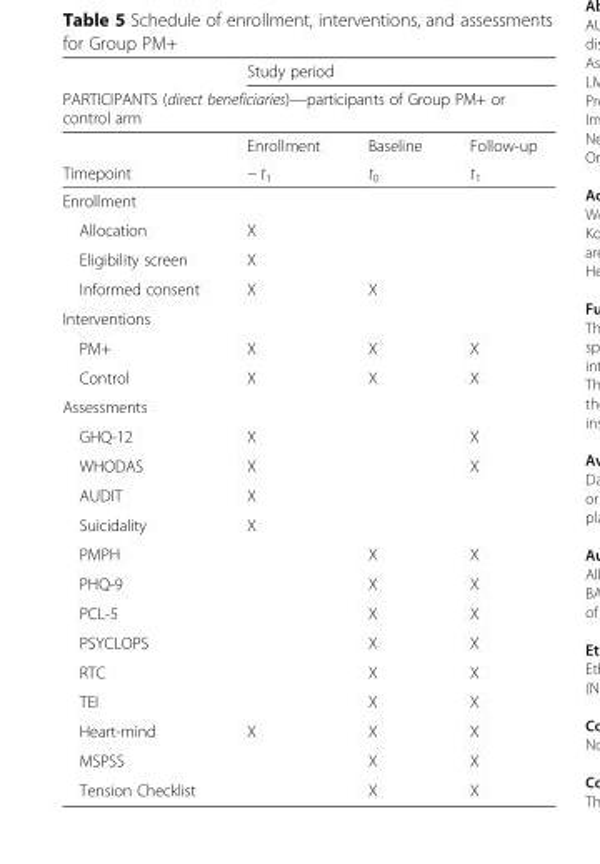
<table><thead><tr><td></td><td colspan="3">Study period</td></tr><tr><td colspan="4">PARTICIPANTS (direct beneficiaries)—participants of Group PM+ or control arm</td></tr><tr><td rowspan="2">Timepoint</td><td rowspan="2">Enrollment − t1</td><td rowspan="2">Baseline t<sub>0</sub></td><td rowspan="2">Follow-up t<sub>1</sub></td></tr><tr></tr></thead><tbody><tr><td colspan="4">Enrollment</td></tr><tr><td>Allocation</td><td>X</td><td></td><td></td></tr><tr><td>Eligibility screen</td><td>X</td><td></td><td></td></tr><tr><td>Informed consent</td><td>X</td><td>X</td><td></td></tr><tr><td colspan="4">Interventions</td></tr><tr><td>PM+</td><td>X</td><td>X</td><td>X</td></tr><tr><td>Control</td><td>X</td><td>X</td><td>X</td></tr><tr><td colspan="4">Assessments</td></tr><tr><td>GHQ-12</td><td>X</td><td></td><td>X</td></tr><tr><td>WHODAS</td><td>X</td><td></td><td>X</td></tr><tr><td>AUDIT</td><td>X</td><td></td><td></td></tr><tr><td>Suicidality</td><td>X</td><td></td><td></td></tr><tr><td>PMPH</td><td></td><td>X</td><td>X</td></tr><tr><td>PHQ-9</td><td></td><td>X</td><td>X</td></tr><tr><td>PCL-5</td><td></td><td>X</td><td>X</td></tr><tr><td>PSYCLOPS</td><td></td><td>X</td><td>X</td></tr><tr><td>RTC</td><td></td><td>X</td><td>X</td></tr><tr><td>TEI</td><td></td><td>X</td><td>X</td></tr><tr><td>Heart-mind</td><td>X</td><td>X</td><td>X</td></tr><tr><td>MSPSS</td><td></td><td>X</td><td>X</td></tr><tr><td>Tension Checklist</td><td></td><td>X</td><td>X</td></tr></tbody></table>